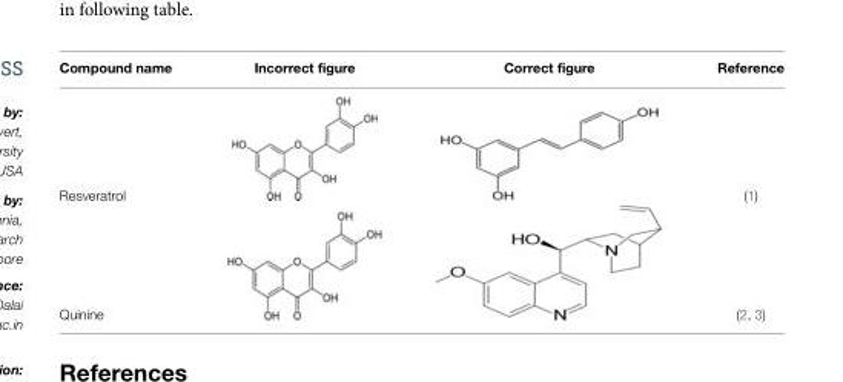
<table><thead><tr><td>Compound name</td><td>Incorrect figure</td><td>Correct figure</td><td>Reference</td></tr></thead><tbody><tr><td>Resveratrol</td><td></td><td></td><td>(1)</td></tr><tr><td>Quinine</td><td></td><td></td><td>(2, 3)</td></tr></tbody></table>